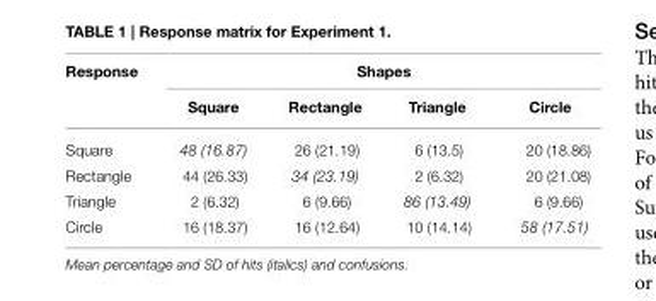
<table><thead><tr><td rowspan="2">Response</td><td colspan="4">Shapes</td></tr><tr><td>Square</td><td>Rectangle</td><td>Triangle</td><td>Circle</td></tr></thead><tbody><tr><td>Square</td><td>48 (16.87)</td><td>26 (21.19)</td><td>6 (13.5)</td><td>20 (18.86)</td></tr><tr><td>Rectangle</td><td>44 (26.33)</td><td>34 (23.19)</td><td>2 (6.32)</td><td>20 (21.08)</td></tr><tr><td>Triangle</td><td>2 (6.32)</td><td>6 (9.66)</td><td>86 (13.49)</td><td>6 (9.66)</td></tr><tr><td>Circle</td><td>16 (18.37)</td><td>16 (12.64)</td><td>10 (14.14)</td><td>58 (17.51)</td></tr></tbody></table>